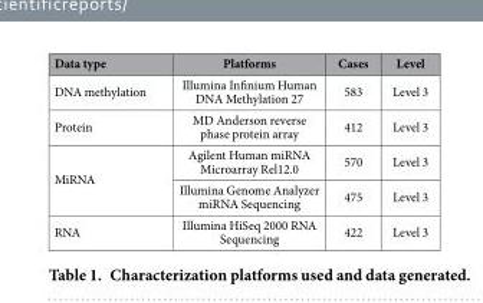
<table><thead><tr><td>Data type</td><td>Platforms</td><td>Cases</td><td>Level</td></tr></thead><tbody><tr><td>DNA methylation</td><td>Illumina Infinium Human DNA Methylation 27</td><td>583</td><td>Level 3</td></tr><tr><td>Protein</td><td>MD Anderson reverse phase protein array</td><td>412</td><td>Level 3</td></tr><tr><td rowspan="2">MiRNA</td><td>Agilent Human miRNA Microarray Rel12.0</td><td>570</td><td>Level 3</td></tr><tr><td>Illumina Genome Analyzer miRNA Sequencing</td><td>475</td><td>Level 3</td></tr><tr><td>RNA</td><td>Illumina HiSeq 2000 RNA Sequencing</td><td>422</td><td>Level 3</td></tr></tbody></table>